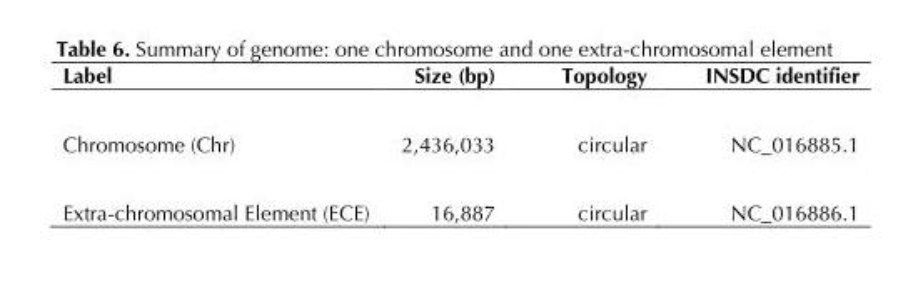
<table><thead><tr><td>Label</td><td>Size (bp)</td><td>Topology</td><td>INSDC identifier</td></tr></thead><tbody><tr><td>Chromosome (Chr)</td><td>2,436,033</td><td>circular</td><td>NC_016885.1</td></tr><tr><td>Extra-chromosomal Element (ECE)</td><td>16,887</td><td>circular</td><td>NC_016886.1</td></tr></tbody></table>